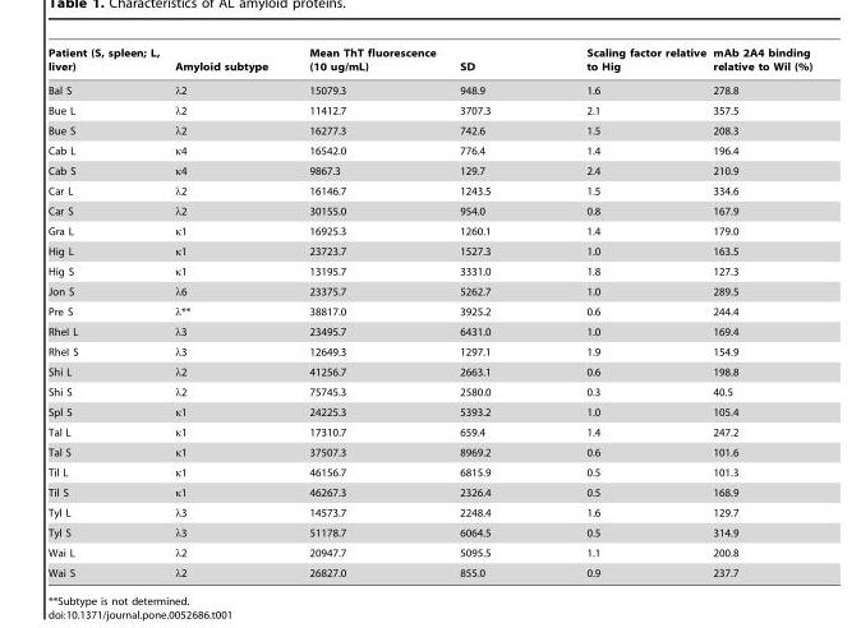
<table><thead><tr><td>Patient (S, spleen; L, liver)</td><td>Amyloid subtype</td><td>Mean ThT fluorescence (10 ug/mL)</td><td>SD</td><td>Scaling factor relative to Hig</td><td>mAb 2A4 binding relative to Wil (%)</td></tr></thead><tbody><tr><td>Bal S</td><td>λ2</td><td>15079.3</td><td>948.9</td><td>1.6</td><td>278.8</td></tr><tr><td>Bue L</td><td>λ2</td><td>11412.7</td><td>3707.3</td><td>2.1</td><td>357.5</td></tr><tr><td>Bue S</td><td>λ2</td><td>16277.3</td><td>742.6</td><td>1.5</td><td>208.3</td></tr><tr><td>Cab L</td><td>κ4</td><td>16542.0</td><td>776.4</td><td>1.4</td><td>196.4</td></tr><tr><td>Cab S</td><td>κ4</td><td>9867.3</td><td>129.7</td><td>2.4</td><td>210.9</td></tr><tr><td>Car L</td><td>λ2</td><td>16146.7</td><td>1243.5</td><td>1.5</td><td>334.6</td></tr><tr><td>Car S</td><td>λ2</td><td>30155.0</td><td>954.0</td><td>0.8</td><td>167.9</td></tr><tr><td>Gra L</td><td>κ1</td><td>16925.3</td><td>1260.1</td><td>1.4</td><td>179.0</td></tr><tr><td>Hig L</td><td>κ1</td><td>23723.7</td><td>1527.3</td><td>1.0</td><td>163.5</td></tr><tr><td>Hig S</td><td>κ1</td><td>13195.7</td><td>3331.0</td><td>1.8</td><td>127.3</td></tr><tr><td>Jon S</td><td>λ6</td><td>23375.7</td><td>5262.7</td><td>1.0</td><td>289.5</td></tr><tr><td>Pre S</td><td>λ**</td><td>38817.0</td><td>3925.2</td><td>0.6</td><td>244.4</td></tr><tr><td>RheI L</td><td>λ3</td><td>23495.7</td><td>6431.0</td><td>1.0</td><td>169.4</td></tr><tr><td>RheI S</td><td>λ3</td><td>12649.3</td><td>1297.1</td><td>1.9</td><td>154.9</td></tr><tr><td>Shi L</td><td>λ2</td><td>41256.7</td><td>2663.1</td><td>0.6</td><td>198.8</td></tr><tr><td>Shi S</td><td>λ2</td><td>75745.3</td><td>2580.0</td><td>0.3</td><td>40.5</td></tr><tr><td>Spl S</td><td>κ1</td><td>24225.3</td><td>5393.2</td><td>1.0</td><td>105.4</td></tr><tr><td>Tal L</td><td>κ1</td><td>17310.7</td><td>659.4</td><td>1.4</td><td>247.2</td></tr><tr><td>Tal S</td><td>κ1</td><td>37507.3</td><td>8969.2</td><td>0.6</td><td>101.6</td></tr><tr><td>Til L</td><td>κ1</td><td>46156.7</td><td>6815.9</td><td>0.5</td><td>101.3</td></tr><tr><td>Til S</td><td>κ1</td><td>46267.3</td><td>2326.4</td><td>0.5</td><td>168.9</td></tr><tr><td>Tyl L</td><td>λ3</td><td>14573.7</td><td>2248.4</td><td>1.6</td><td>129.7</td></tr><tr><td>Tyl S</td><td>λ3</td><td>51178.7</td><td>6064.5</td><td>0.5</td><td>314.9</td></tr><tr><td>Wai L</td><td>λ2</td><td>20947.7</td><td>5095.5</td><td>1.1</td><td>200.8</td></tr><tr><td>Wai S</td><td>λ2</td><td>26827.0</td><td>855.0</td><td>0.9</td><td>237.7</td></tr></tbody></table>